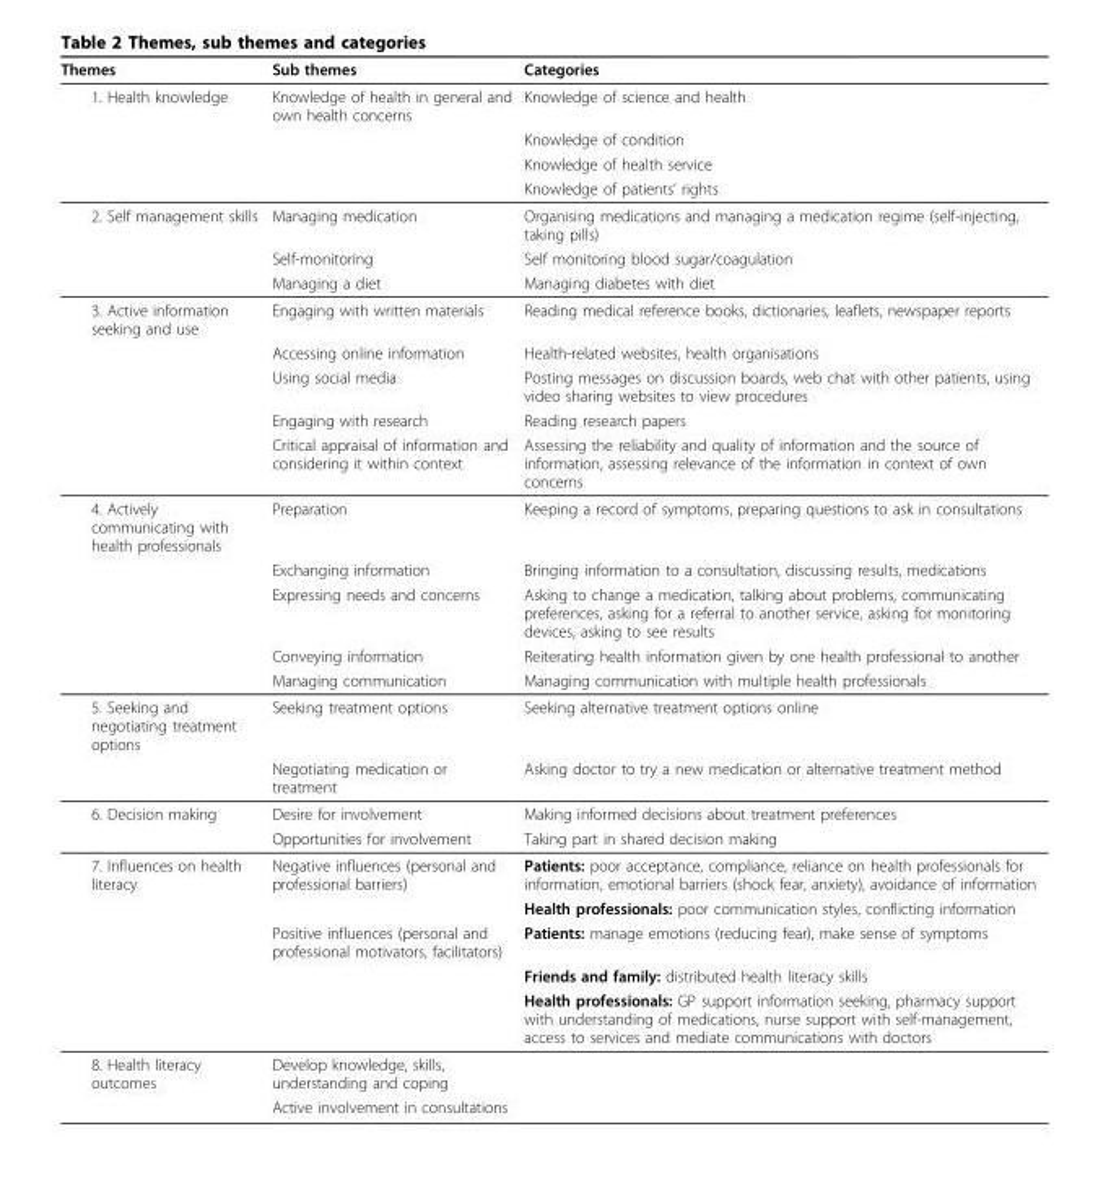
<table><thead><tr><td>Themes</td><td>Sub themes</td><td>Categories</td></tr></thead><tbody><tr><td rowspan="4">1. Health knowledge</td><td>Knowledge of health in general and own health concerns</td><td>Knowledge of science and health</td></tr><tr><td></td><td>Knowledge of condition</td></tr><tr><td></td><td>Knowledge of health service</td></tr><tr><td></td><td>Knowledge of patients’ rights</td></tr><tr><td rowspan="3">2. Self management skills</td><td>Managing medication</td><td>Organising medications and managing a medication regime (self-injecting, taking pills)</td></tr><tr><td>Self-monitoring</td><td>Self monitoring blood sugar/coagulation</td></tr><tr><td>Managing a diet</td><td>Managing diabetes with diet</td></tr><tr><td rowspan="5">3. Active information seeking and use</td><td>Engaging with written materials</td><td>Reading medical reference books, dictionaries, leaflets, newspaper reports</td></tr><tr><td>Accessing online information</td><td>Health-related websites, health organisations</td></tr><tr><td>Using social media</td><td>Posting messages on discussion boards, web chat with other patients, using video sharing websites to view procedures</td></tr><tr><td>Engaging with research</td><td>Reading research papers</td></tr><tr><td>Critical appraisal of information and considering it within context</td><td>Assessing the reliability and quality of information and the source of information, assessing relevance of the information in context of own concerns</td></tr><tr><td rowspan="5">4. Actively communicating with health professionals</td><td>Preparation</td><td>Keeping a record of symptoms, preparing questions to ask in consultations</td></tr><tr><td>Exchanging information</td><td>Bringing information to a consultation, discussing results, medications</td></tr><tr><td>Expressing needs and concerns</td><td>Asking to change a medication, talking about problems, communicating preferences, asking for a referral to another service, asking for monitoring devices, asking to see results</td></tr><tr><td>Conveying information</td><td>Reiterating health information given by one health professional to another</td></tr><tr><td>Managing communication</td><td>Managing communication with multiple health professionals</td></tr><tr><td rowspan="2">5. Seeking and negotiating treatment options</td><td>Seeking treatment options</td><td>Seeking alternative treatment options online</td></tr><tr><td>Negotiating medication or treatment</td><td>Asking doctor to try a new medication or alternative treatment method</td></tr><tr><td rowspan="2">6. Decision making</td><td>Desire for involvement</td><td>Making informed decisions about treatment preferences</td></tr><tr><td>Opportunities for involvement</td><td>Taking part in shared decision making</td></tr><tr><td rowspan="5">7. Influences on health literacy</td><td>Negative influences (personal and professional barriers)</td><td>Patients: poor acceptance, compliance, reliance on health professionals for information, emotional barriers (shock fear, anxiety), avoidance of information</td></tr><tr><td></td><td>Health professionals: poor communication styles, conflicting information</td></tr><tr><td>Positive influences (personal and professional motivators, facilitators)</td><td>Patients: manage emotions (reducing fear), make sense of symptoms</td></tr><tr><td></td><td>Friends and family: distributed health literacy skills</td></tr><tr><td></td><td>Health professionals: GP support information seeking, pharmacy support with understanding of medications, nurse support with self-management, access to services and mediate communications with doctors</td></tr><tr><td rowspan="2">8. Health literacy outcomes</td><td>Develop knowledge, skills, understanding and coping</td><td></td></tr><tr><td>Active involvement in consultations</td><td></td></tr></tbody></table>